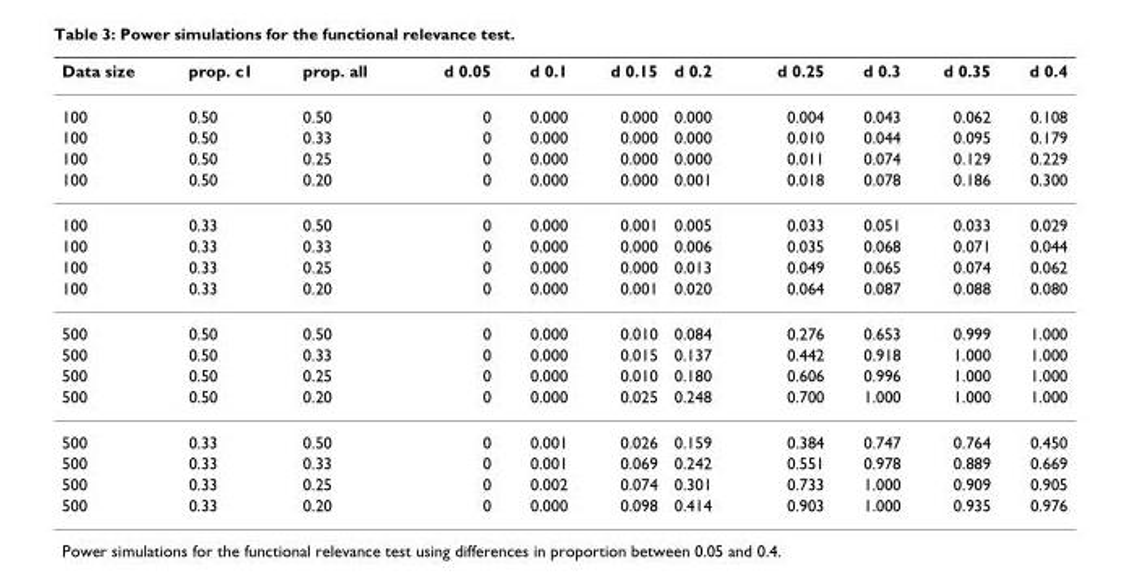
<table><thead><tr><td>Data size</td><td>prop. c1</td><td>prop. all</td><td>d 0.05</td><td>d 0.1</td><td>d 0.15</td><td>d 0.2</td><td>d 0.25</td><td>d 0.3</td><td>d 0.35</td><td>d 0.4</td></tr></thead><tbody><tr><td>100</td><td>0.50</td><td>0.50</td><td>0</td><td>0.000</td><td>0.000</td><td>0.000</td><td>0.004</td><td>0.043</td><td>0.062</td><td>0.108</td></tr><tr><td>100</td><td>0.50</td><td>0.33</td><td>0</td><td>0.000</td><td>0.000</td><td>0.000</td><td>0.010</td><td>0.044</td><td>0.095</td><td>0.179</td></tr><tr><td>100</td><td>0.50</td><td>0.25</td><td>0</td><td>0.000</td><td>0.000</td><td>0.000</td><td>0.011</td><td>0.074</td><td>0.129</td><td>0.229</td></tr><tr><td>100</td><td>0.50</td><td>0.20</td><td>0</td><td>0.000</td><td>0.000</td><td>0.001</td><td>0.018</td><td>0.078</td><td>0.186</td><td>0.300</td></tr><tr><td>100</td><td>0.33</td><td>0.50</td><td>0</td><td>0.000</td><td>0.001</td><td>0.005</td><td>0.033</td><td>0.051</td><td>0.033</td><td>0.029</td></tr><tr><td>100</td><td>0.33</td><td>0.33</td><td>0</td><td>0.000</td><td>0.000</td><td>0.006</td><td>0.035</td><td>0.068</td><td>0.071</td><td>0.044</td></tr><tr><td>100</td><td>0.33</td><td>0.25</td><td>0</td><td>0.000</td><td>0.000</td><td>0.013</td><td>0.049</td><td>0.065</td><td>0.074</td><td>0.062</td></tr><tr><td>100</td><td>0.33</td><td>0.20</td><td>0</td><td>0.000</td><td>0.001</td><td>0.020</td><td>0.064</td><td>0.087</td><td>0.088</td><td>0.080</td></tr><tr><td>500</td><td>0.50</td><td>0.50</td><td>0</td><td>0.000</td><td>0.010</td><td>0.084</td><td>0.276</td><td>0.653</td><td>0.999</td><td>1.000</td></tr><tr><td>500</td><td>0.50</td><td>0.33</td><td>0</td><td>0.000</td><td>0.015</td><td>0.137</td><td>0.442</td><td>0.918</td><td>1.000</td><td>1.000</td></tr><tr><td>500</td><td>0.50</td><td>0.25</td><td>0</td><td>0.000</td><td>0.010</td><td>0.180</td><td>0.606</td><td>0.996</td><td>1.000</td><td>1.000</td></tr><tr><td>500</td><td>0.50</td><td>0.20</td><td>0</td><td>0.000</td><td>0.025</td><td>0.248</td><td>0.700</td><td>1.000</td><td>1.000</td><td>1.000</td></tr><tr><td>500</td><td>0.33</td><td>0.50</td><td>0</td><td>0.001</td><td>0.026</td><td>0.159</td><td>0.384</td><td>0.747</td><td>0.764</td><td>0.450</td></tr><tr><td>500</td><td>0.33</td><td>0.33</td><td>0</td><td>0.001</td><td>0.069</td><td>0.242</td><td>0.551</td><td>0.978</td><td>0.889</td><td>0.669</td></tr><tr><td>500</td><td>0.33</td><td>0.25</td><td>0</td><td>0.002</td><td>0.074</td><td>0.301</td><td>0.733</td><td>1.000</td><td>0.909</td><td>0.905</td></tr><tr><td>500</td><td>0.33</td><td>0.20</td><td>0</td><td>0.000</td><td>0.098</td><td>0.414</td><td>0.903</td><td>1.000</td><td>0.935</td><td>0.976</td></tr></tbody></table>